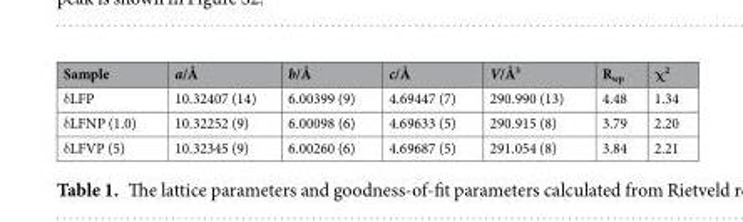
<table><thead><tr><td>Sample</td><td>a/Å</td><td>b/Å</td><td>c/Å</td><td>V/Å<sup>3</sup></td><td>R<sub>wp</sub></td><td>χ<sup>2</sup></td></tr></thead><tbody><tr><td>δLFP</td><td>10.32407 (14)</td><td>6.00399 (9)</td><td>4.69447 (7)</td><td>290.990 (13)</td><td>4.48</td><td>1.34</td></tr><tr><td>δLFNP (1.0)</td><td>10.32252 (9)</td><td>6.00098 (6)</td><td>4.69633 (5)</td><td>290.915 (8)</td><td>3.79</td><td>2.20</td></tr><tr><td>δLFVP (5)</td><td>10.32345 (9)</td><td>6.00260 (6)</td><td>4.69687 (5)</td><td>291.054 (8)</td><td>3.84</td><td>2.21</td></tr></tbody></table>